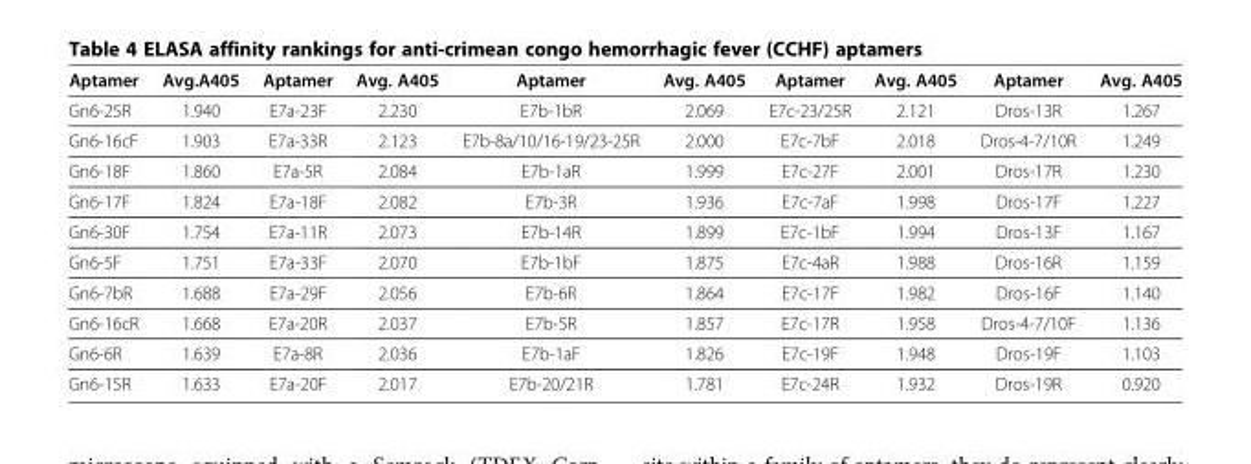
<table><thead><tr><td>Aptamer</td><td>Avg.A405</td><td>Aptamer</td><td>Avg. A405</td><td>Aptamer</td><td>Avg. A405</td><td>Aptamer</td><td>Avg. A405</td><td>Aptamer</td><td>Avg. A405</td></tr></thead><tbody><tr><td>Gn6-25R</td><td>1.940</td><td>E7a-23F</td><td>2.230</td><td>E7b-1bR</td><td>2.069</td><td>E7c-23/25R</td><td>2.121</td><td>Dros-13R</td><td>1.267</td></tr><tr><td>Gn6-16cF</td><td>1.903</td><td>E7a-33R</td><td>2.123</td><td>E7b-8a/10/16-19/23-25R</td><td>2.000</td><td>E7c-7bF</td><td>2.018</td><td>Dros-4-7/10R</td><td>1.249</td></tr><tr><td>Gn6-18F</td><td>1.860</td><td>E7a-5R</td><td>2.084</td><td>E7b-1aR</td><td>1.999</td><td>E7c-27F</td><td>2.001</td><td>Dros-17R</td><td>1.230</td></tr><tr><td>Gn6-17F</td><td>1.824</td><td>E7a-18F</td><td>2.082</td><td>E7b-3R</td><td>1.936</td><td>E7c-7aF</td><td>1.998</td><td>Dros-17F</td><td>1.227</td></tr><tr><td>Gn6-30F</td><td>1.754</td><td>E7a-11R</td><td>2.073</td><td>E7b-14R</td><td>1.899</td><td>E7c-1bF</td><td>1.994</td><td>Dros-13F</td><td>1.167</td></tr><tr><td>Gn6-5F</td><td>1.751</td><td>E7a-33F</td><td>2.070</td><td>E7b-1bF</td><td>1.875</td><td>E7c-4aR</td><td>1.988</td><td>Dros-16R</td><td>1.159</td></tr><tr><td>Gn6-7bR</td><td>1.688</td><td>E7a-29F</td><td>2.056</td><td>E7b-6R</td><td>1.864</td><td>E7c-17F</td><td>1.982</td><td>Dros-16F</td><td>1.140</td></tr><tr><td>Gn6-16cR</td><td>1.668</td><td>E7a-20R</td><td>2.037</td><td>E7b-5R</td><td>1.857</td><td>E7c-17R</td><td>1.958</td><td>Dros-4-7/10F</td><td>1.136</td></tr><tr><td>Gn6-6R</td><td>1.639</td><td>E7a-8R</td><td>2.036</td><td>E7b-1aF</td><td>1.826</td><td>E7c-19F</td><td>1.948</td><td>Dros-19F</td><td>1.103</td></tr><tr><td>Gn6-15R</td><td>1.633</td><td>E7a-20F</td><td>2.017</td><td>E7b-20/21R</td><td>1.781</td><td>E7c-24R</td><td>1.932</td><td>Dros-19R</td><td>0.920</td></tr></tbody></table>